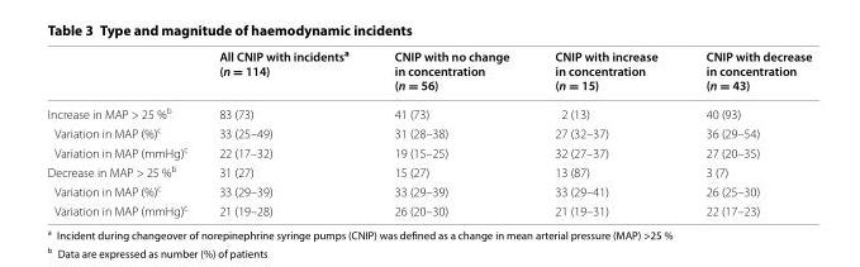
<table><thead><tr><td></td><td>All CNIP with incidents<sup>a</sup> (n = 114)</td><td>CNIP with no change in concentration (n = 56)</td><td>CNIP with increase in concentration (n = 15)</td><td>CNIP with decrease in concentration (n = 43)</td></tr></thead><tbody><tr><td>Increase in MAP &gt; 25 %<sup>b</sup></td><td>83 (73)</td><td>41 (73)</td><td>2 (13)</td><td>40 (93)</td></tr><tr><td>Variation in MAP (%)<sup>c</sup></td><td>33 (25–49)</td><td>31 (28–38)</td><td>27 (32–37)</td><td>36 (29–54)</td></tr><tr><td>Variation in MAP (mmHg)<sup>c</sup></td><td>22 (17–32)</td><td>19 (15–25)</td><td>32 (27–37)</td><td>27 (20–35)</td></tr><tr><td>Decrease in MAP &gt; 25 %<sup>b</sup></td><td>31 (27)</td><td>15 (27)</td><td>13 (87)</td><td>3 (7)</td></tr><tr><td>Variation in MAP (%)<sup>c</sup></td><td>33 (29–39)</td><td>33 (29–39)</td><td>33 (29–41)</td><td>26 (25–30)</td></tr><tr><td>Variation in MAP (mmHg)<sup>c</sup></td><td>21 (19–28)</td><td>26 (20–30)</td><td>21 (19–31)</td><td>22 (17–23)</td></tr></tbody></table>